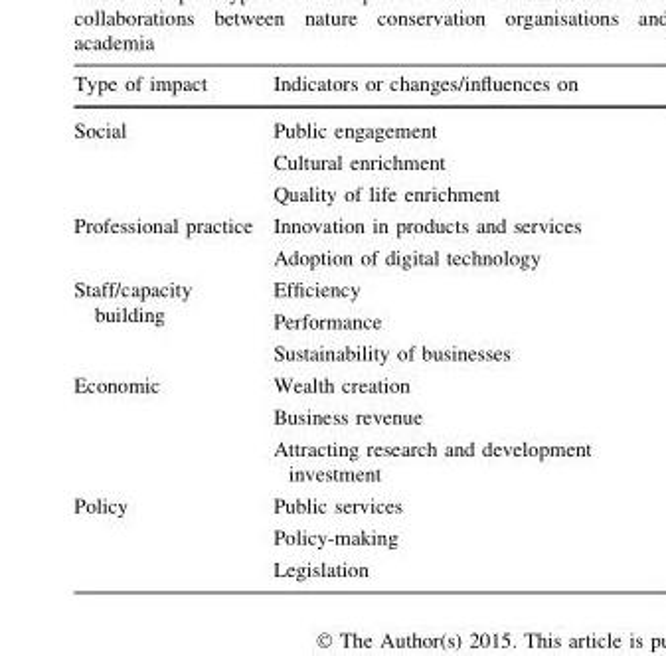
<table><thead><tr><td>Type of impact</td><td>Indicators or changes/influences on</td></tr></thead><tbody><tr><td>Social</td><td>Public engagement Cultural enrichment Quality of life enrichment</td></tr><tr><td>Professional practice</td><td>Innovation in products and services Adoption of digital technology</td></tr><tr><td>Staff/capacity building</td><td>Efficiency Performance Sustainability of businesses</td></tr><tr><td>Economic</td><td>Wealth creation Business revenue Attracting research and development investment</td></tr><tr><td>Policy</td><td>Public services Policy-making Legislation</td></tr></tbody></table>